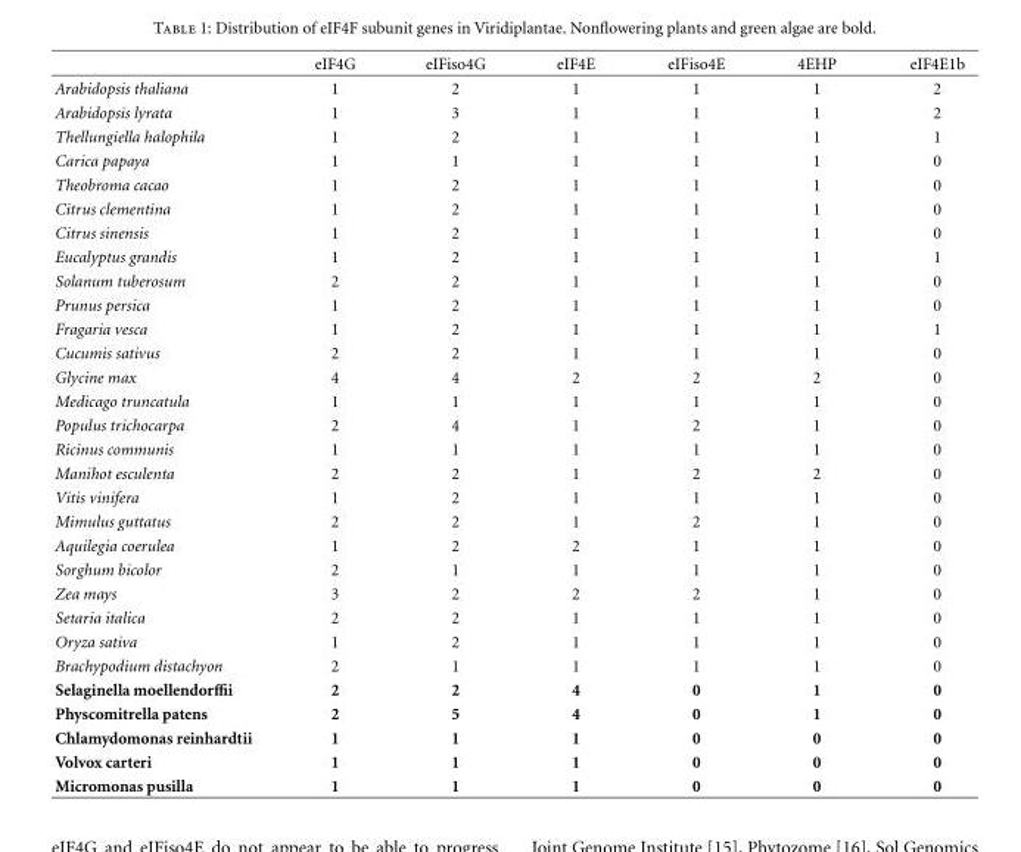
<table><thead><tr><td></td><td>eIF4G</td><td>eIFiso4G</td><td>eIF4E</td><td>eIFiso4E</td><td>4EHP</td><td>eIF4E1b</td></tr></thead><tbody><tr><td>Arabidopsis thaliana</td><td>1</td><td>2</td><td>1</td><td>1</td><td>1</td><td>2</td></tr><tr><td>Arabidopsis lyrata</td><td>1</td><td>3</td><td>1</td><td>1</td><td>1</td><td>2</td></tr><tr><td>Thellungiella halophila</td><td>1</td><td>2</td><td>1</td><td>1</td><td>1</td><td>1</td></tr><tr><td>Carica papaya</td><td>1</td><td>1</td><td>1</td><td>1</td><td>1</td><td>0</td></tr><tr><td>Theobroma cacao</td><td>1</td><td>2</td><td>1</td><td>1</td><td>1</td><td>0</td></tr><tr><td>Citrus clementina</td><td>1</td><td>2</td><td>1</td><td>1</td><td>1</td><td>0</td></tr><tr><td>Citrus sinensis</td><td>1</td><td>2</td><td>1</td><td>1</td><td>1</td><td>0</td></tr><tr><td>Eucalyptus grandis</td><td>1</td><td>2</td><td>1</td><td>1</td><td>1</td><td>1</td></tr><tr><td>Solanum tuberosum</td><td>2</td><td>2</td><td>1</td><td>1</td><td>1</td><td>0</td></tr><tr><td>Prunus persica</td><td>1</td><td>2</td><td>1</td><td>1</td><td>1</td><td>0</td></tr><tr><td>Fragaria vesca</td><td>1</td><td>2</td><td>1</td><td>1</td><td>1</td><td>1</td></tr><tr><td>Cucumis sativus</td><td>2</td><td>2</td><td>1</td><td>1</td><td>1</td><td>0</td></tr><tr><td>Glycine max</td><td>4</td><td>4</td><td>2</td><td>2</td><td>2</td><td>0</td></tr><tr><td>Medicago truncatula</td><td>1</td><td>1</td><td>1</td><td>1</td><td>1</td><td>0</td></tr><tr><td>Populus trichocarpa</td><td>2</td><td>4</td><td>1</td><td>2</td><td>1</td><td>0</td></tr><tr><td>Ricinus communis</td><td>1</td><td>1</td><td>1</td><td>1</td><td>1</td><td>0</td></tr><tr><td>Manihot esculenta</td><td>2</td><td>2</td><td>1</td><td>2</td><td>2</td><td>0</td></tr><tr><td>Vitis vinifera</td><td>1</td><td>2</td><td>1</td><td>1</td><td>1</td><td>0</td></tr><tr><td>Mimulus guttatus</td><td>2</td><td>2</td><td>1</td><td>2</td><td>1</td><td>0</td></tr><tr><td>Aquilegia coerulea</td><td>1</td><td>2</td><td>2</td><td>1</td><td>1</td><td>0</td></tr><tr><td>Sorghum bicolor</td><td>2</td><td>1</td><td>1</td><td>1</td><td>1</td><td>0</td></tr><tr><td>Zea mays</td><td>3</td><td>2</td><td>2</td><td>2</td><td>1</td><td>0</td></tr><tr><td>Setaria italica</td><td>2</td><td>2</td><td>1</td><td>1</td><td>1</td><td>0</td></tr><tr><td>Oryza sativa</td><td>1</td><td>2</td><td>1</td><td>1</td><td>1</td><td>0</td></tr><tr><td>Brachypodium distachyon</td><td>2</td><td>1</td><td>1</td><td>1</td><td>1</td><td>0</td></tr><tr><td>Selaginella moellendorffii</td><td>2</td><td>2</td><td>4</td><td>0</td><td>1</td><td>0</td></tr><tr><td>Physcomitrella patens</td><td>2</td><td>5</td><td>4</td><td>0</td><td>1</td><td>0</td></tr><tr><td>Chlamydomonas reinhardtii</td><td>1</td><td>1</td><td>1</td><td>0</td><td>0</td><td>0</td></tr><tr><td>Volvox carteri</td><td>1</td><td>1</td><td>1</td><td>0</td><td>0</td><td>0</td></tr><tr><td>Micromonas pusilla</td><td>1</td><td>1</td><td>1</td><td>0</td><td>0</td><td>0</td></tr></tbody></table>